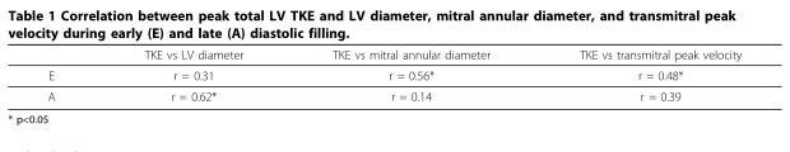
<table><thead><tr><td></td><td>TKE vs LV diameter</td><td>TKE vs mitral annular diameter</td><td>TKE vs transmitral peak velocity</td></tr></thead><tbody><tr><td>E</td><td>r = 0.31</td><td>r = 0.56*</td><td>r = 0.48*</td></tr><tr><td>A</td><td>r = 0.62*</td><td>r = 0.14</td><td>r = 0.39</td></tr></tbody></table>